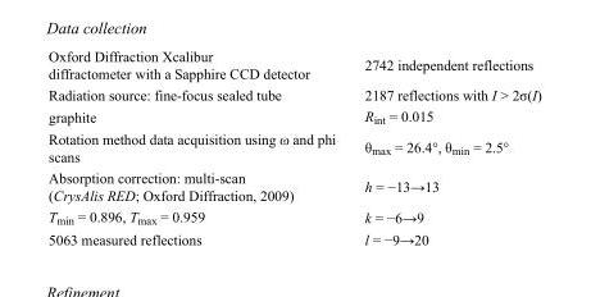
<table><tbody><tr><td>Oxford Diffraction Xcalibur diffractometer with a Sapphire CCD detector</td><td>2742 independent reflections</td></tr><tr><td>Radiation source: fine-focus sealed tube</td><td>2187 reflections with I &gt; 2σ(I)</td></tr><tr><td>graphite</td><td>R<sub>int</sub> = 0.015</td></tr><tr><td>Rotation method data acquisition using ω and phi scans</td><td>θ<sub>max</sub> = 26.4°, θ<sub>min</sub> = 2.5°</td></tr><tr><td>Absorption correction: multi-scan (CrysAlis RED; Oxford Diffraction, 2009)</td><td>h = −13→13</td></tr><tr><td>T<sub>min</sub> = 0.896, T<sub>max</sub> = 0.959</td><td>k = −6→9</td></tr><tr><td>5063 measured reflections</td><td>l = −9→20</td></tr></tbody></table>